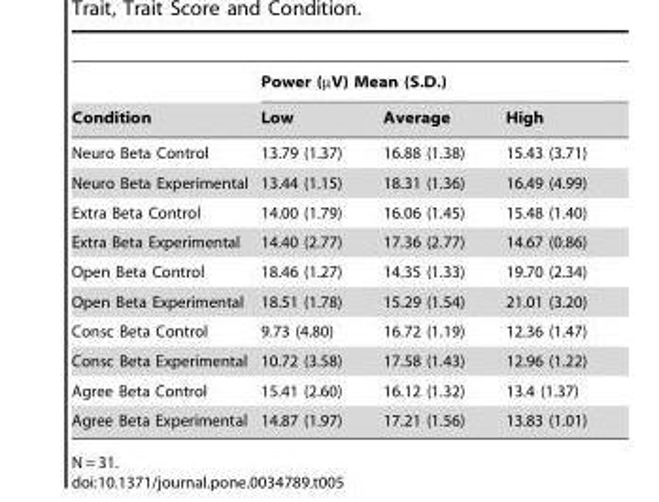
<table><thead><tr><td rowspan="2">Condition</td><td colspan="3">Power (µV) Mean (S.D.)</td></tr><tr><td>Low</td><td>Average</td><td>High</td></tr></thead><tbody><tr><td>Neuro Beta Control</td><td>13.79 (1.37)</td><td>16.88 (1.38)</td><td>15.43 (3.71)</td></tr><tr><td>Neuro Beta Experimental</td><td>13.44 (1.15)</td><td>18.31 (1.36)</td><td>16.49 (4.99)</td></tr><tr><td>Extra Beta Control</td><td>14.00 (1.79)</td><td>16.06 (1.45)</td><td>15.48 (1.40)</td></tr><tr><td>Extra Beta Experimental</td><td>14.40 (2.77)</td><td>17.36 (2.77)</td><td>14.67 (0.86)</td></tr><tr><td>Open Beta Control</td><td>18.46 (1.27)</td><td>14.35 (1.33)</td><td>19.70 (2.34)</td></tr><tr><td>Open Beta Experimental</td><td>18.51 (1.78)</td><td>15.29 (1.54)</td><td>21.01 (3.20)</td></tr><tr><td>Consc Beta Control</td><td>9.73 (4.80)</td><td>16.72 (1.19)</td><td>12.36 (1.47)</td></tr><tr><td>Consc Beta Experimental</td><td>10.72 (3.58)</td><td>17.58 (1.43)</td><td>12.96 (1.22)</td></tr><tr><td>Agree Beta Control</td><td>15.41 (2.60)</td><td>16.12 (1.32)</td><td>13.4 (1.37)</td></tr><tr><td>Agree Beta Experimental</td><td>14.87 (1.97)</td><td>17.21 (1.56)</td><td>13.83 (1.01)</td></tr></tbody></table>